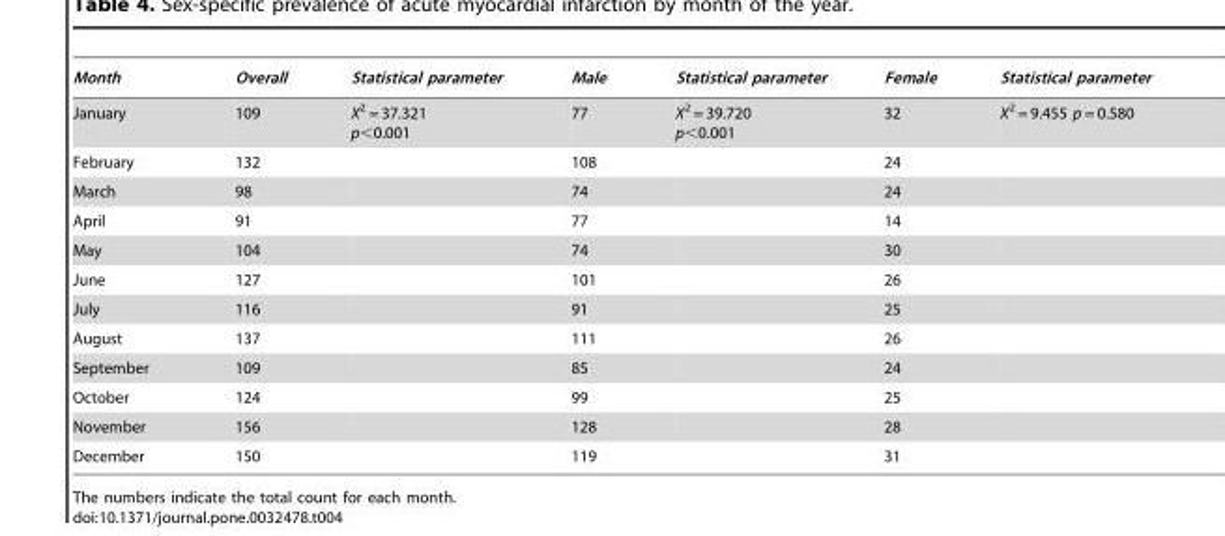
<table><thead><tr><td>Month</td><td>Overall</td><td>Statistical parameter</td><td>Male</td><td>Statistical parameter</td><td>Female</td><td>Statistical parameter</td></tr></thead><tbody><tr><td>January</td><td>109</td><td>X<sup>2</sup> = 37.321 p&lt;0.001</td><td>77</td><td>X<sup>2</sup> = 39.720 p&lt;0.001</td><td>32</td><td>X<sup>2</sup> = 9.455 p = 0.580</td></tr><tr><td>February</td><td>132</td><td></td><td>108</td><td></td><td>24</td><td></td></tr><tr><td>March</td><td>98</td><td></td><td>74</td><td></td><td>24</td><td></td></tr><tr><td>April</td><td>91</td><td></td><td>77</td><td></td><td>14</td><td></td></tr><tr><td>May</td><td>104</td><td></td><td>74</td><td></td><td>30</td><td></td></tr><tr><td>June</td><td>127</td><td></td><td>101</td><td></td><td>26</td><td></td></tr><tr><td>July</td><td>116</td><td></td><td>91</td><td></td><td>25</td><td></td></tr><tr><td>August</td><td>137</td><td></td><td>111</td><td></td><td>26</td><td></td></tr><tr><td>September</td><td>109</td><td></td><td>85</td><td></td><td>24</td><td></td></tr><tr><td>October</td><td>124</td><td></td><td>99</td><td></td><td>25</td><td></td></tr><tr><td>November</td><td>156</td><td></td><td>128</td><td></td><td>28</td><td></td></tr><tr><td>December</td><td>150</td><td></td><td>119</td><td></td><td>31</td><td></td></tr></tbody></table>